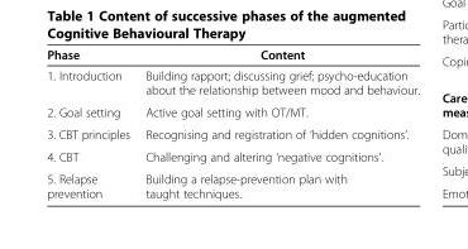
<table><thead><tr><td>Phase</td><td>Content</td></tr></thead><tbody><tr><td>1. Introduction</td><td>Building rapport; discussing grief; psycho-education about the relationship between mood and behaviour.</td></tr><tr><td>2. Goal setting</td><td>Active goal setting with OT/MT.</td></tr><tr><td>3. CBT principles</td><td>Recognising and registration of ‘hidden cognitions’.</td></tr><tr><td>4. CBT</td><td>Challenging and altering ‘negative cognitions’.</td></tr><tr><td>5. Relapse prevention</td><td>Building a relapse-prevention plan with taught techniques.</td></tr></tbody></table>